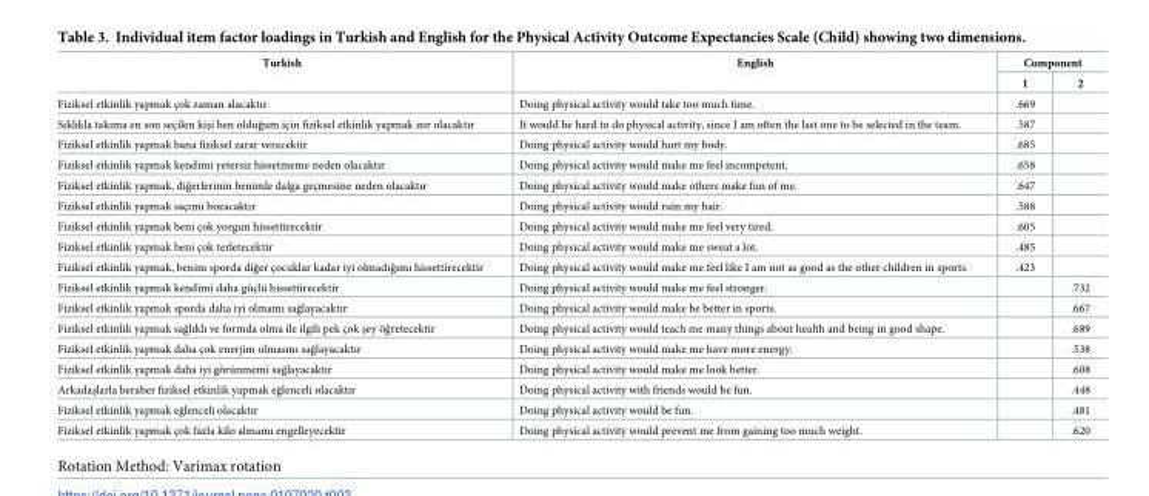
<table><thead><tr><td rowspan="2">Turkish</td><td rowspan="2">English</td><td colspan="2">Component</td></tr><tr><td>1</td><td>2</td></tr></thead><tbody><tr><td>Fiziksel etkinlik yapmak c¸ok zaman alacaktır</td><td>Doing physical activity would take too much time.</td><td>.669</td><td></td></tr><tr><td>Sıklıkla takıma en son sec¸ilen kişi ben olduğum ic¸in fiziksel etkinlik yapmak zor olacaktır</td><td>It would be hard to do physical activity, since I am often the last one to be selected in the team.</td><td>.587</td><td></td></tr><tr><td>Fiziksel etkinlik yapmak bana fiziksel zarar verecektir</td><td>Doing physical activity would hurt my body.</td><td>.685</td><td></td></tr><tr><td>Fiziksel etkinlik yapmak kendimi yetersiz hissetmeme neden olacaktır</td><td>Doing physical activity would make me feel incompetent.</td><td>.658</td><td></td></tr><tr><td>Fiziksel etkinlik yapmak, diğerlerinin benimle dalga gec¸mesine neden olacaktır</td><td>Doing physical activity would make others make fun of me.</td><td>.647</td><td></td></tr><tr><td>Fiziksel etkinlik yapmak sac¸ımı bozacaktır</td><td>Doing physical activity would ruin my hair.</td><td>.588</td><td></td></tr><tr><td>Fiziksel etkinlik yapmak beni c¸ok yorgun hissettirecektir</td><td>Doing physical activity would make me feel very tired.</td><td>.605</td><td></td></tr><tr><td>Fiziksel etkinlik yapmak beni c¸ok terletecektir</td><td>Doing physical activity would make me sweat a lot.</td><td>.485</td><td></td></tr><tr><td>Fiziksel etkinlik yapmak, benim sporda diğer c¸ocuklar kadar iyi olmadığımı hissettirecektir</td><td>Doing physical activity would make me feel like I am not as good as the other children in sports.</td><td>.423</td><td></td></tr><tr><td>Fiziksel etkinlik yapmak kendimi daha gu¨c¸lu¨ hissettirecektir</td><td>Doing physical activity would make me feel stronger.</td><td></td><td>.732</td></tr><tr><td>Fiziksel etkinlik yapmak sporda daha iyi olmamı sağlayacaktır</td><td>Doing physical activity would make be better in sports.</td><td></td><td>.667</td></tr><tr><td>Fiziksel etkinlik yapmak sağlıklı ve formda olma ile ilgili pek c¸ok şey o¨ğretecektir</td><td>Doing physical activity would teach me many things about health and being in good shape.</td><td></td><td>.689</td></tr><tr><td>Fiziksel etkinlik yapmak daha c¸ok enerjim olmasını sağlayacaktır</td><td>Doing physical activity would make me have more energy.</td><td></td><td>.538</td></tr><tr><td>Fiziksel etkinlik yapmak daha iyi go¨ru¨nmemi sağlayacaktır</td><td>Doing physical activity would make me look better.</td><td></td><td>.608</td></tr><tr><td>Arkadaşlarla beraber fiziksel etkinlik yapmak eğlenceli olacaktır</td><td>Doing physical activity with friends would be fun.</td><td></td><td>.448</td></tr><tr><td>Fiziksel etkinlik yapmak eğlenceli olacaktır</td><td>Doing physical activity would be fun.</td><td></td><td>.481</td></tr><tr><td>Fiziksel etkinlik yapmak c¸ok fazla kilo almamı engelleyecektir</td><td>Doing physical activity would prevent me from gaining too much weight.</td><td></td><td>.620</td></tr></tbody></table>